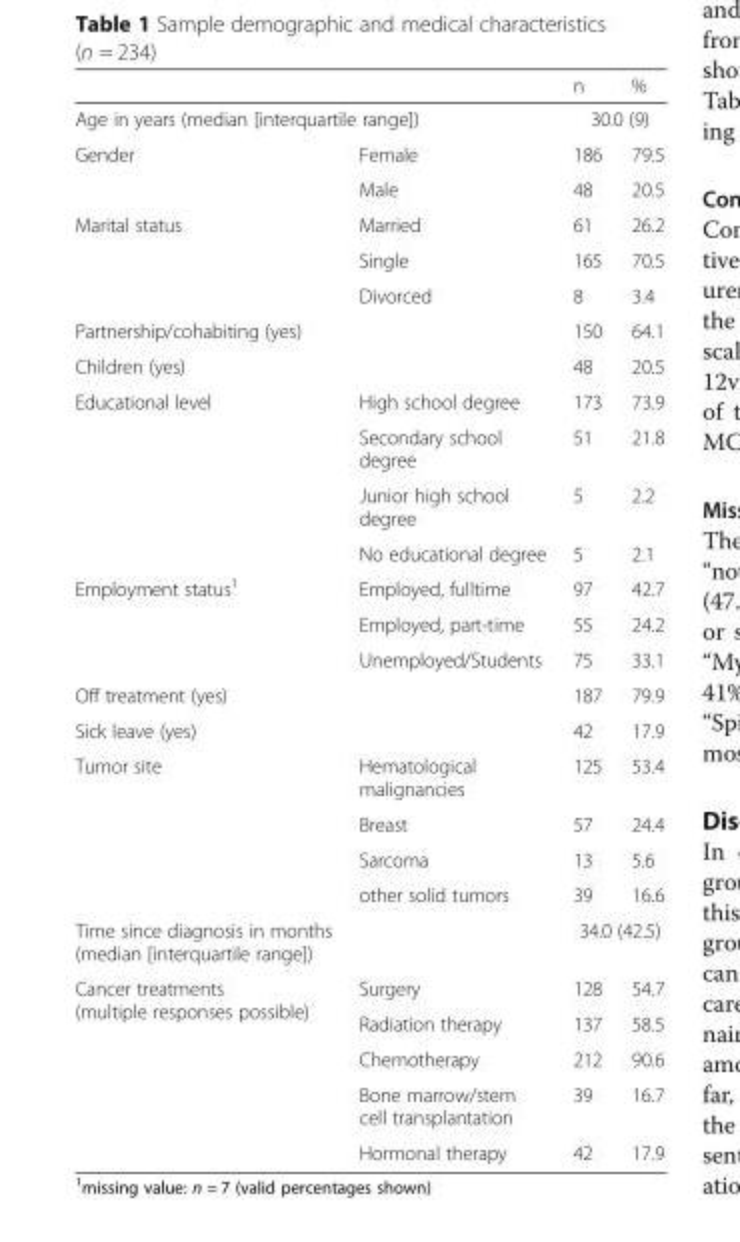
<table><thead><tr><td></td><td></td><td>n</td><td>%</td></tr></thead><tbody><tr><td colspan="2">Age in years (median [interquartile range])</td><td colspan="2">30.0 (9)</td></tr><tr><td rowspan="2">Gender</td><td>Female</td><td>186</td><td>79.5</td></tr><tr><td>Male</td><td>48</td><td>20.5</td></tr><tr><td rowspan="3">Marital status</td><td>Married</td><td>61</td><td>26.2</td></tr><tr><td>Single</td><td>165</td><td>70.5</td></tr><tr><td>Divorced</td><td>8</td><td>3.4</td></tr><tr><td>Partnership/cohabiting (yes)</td><td></td><td>150</td><td>64.1</td></tr><tr><td>Children (yes)</td><td></td><td>48</td><td>20.5</td></tr><tr><td rowspan="4">Educational level</td><td>High school degree</td><td>173</td><td>73.9</td></tr><tr><td>Secondary school degree</td><td>51</td><td>21.8</td></tr><tr><td>Junior high school degree</td><td>5</td><td>2.2</td></tr><tr><td>No educational degree</td><td>5</td><td>2.1</td></tr><tr><td rowspan="3">Employment status<sup>1</sup></td><td>Employed, fulltime</td><td>97</td><td>42.7</td></tr><tr><td>Employed, part-time</td><td>55</td><td>24.2</td></tr><tr><td>Unemployed/Students</td><td>75</td><td>33.1</td></tr><tr><td>Off treatment (yes)</td><td></td><td>187</td><td>79.9</td></tr><tr><td>Sick leave (yes)</td><td></td><td>42</td><td>17.9</td></tr><tr><td rowspan="4">Tumor site</td><td>Hematological malignancies</td><td>125</td><td>53.4</td></tr><tr><td>Breast</td><td>57</td><td>24.4</td></tr><tr><td>Sarcoma</td><td>13</td><td>5.6</td></tr><tr><td>other solid tumors</td><td>39</td><td>16.6</td></tr><tr><td>Time since diagnosis in months (median [interquartile range])</td><td></td><td colspan="2">34.0 (42.5)</td></tr><tr><td rowspan="5">Cancer treatments (multiple responses possible)</td><td>Surgery</td><td>128</td><td>54.7</td></tr><tr><td>Radiation therapy</td><td>137</td><td>58.5</td></tr><tr><td>Chemotherapy</td><td>212</td><td>90.6</td></tr><tr><td>Bone marrow/stem cell transplantation</td><td>39</td><td>16.7</td></tr><tr><td>Hormonal therapy</td><td>42</td><td>17.9</td></tr></tbody></table>